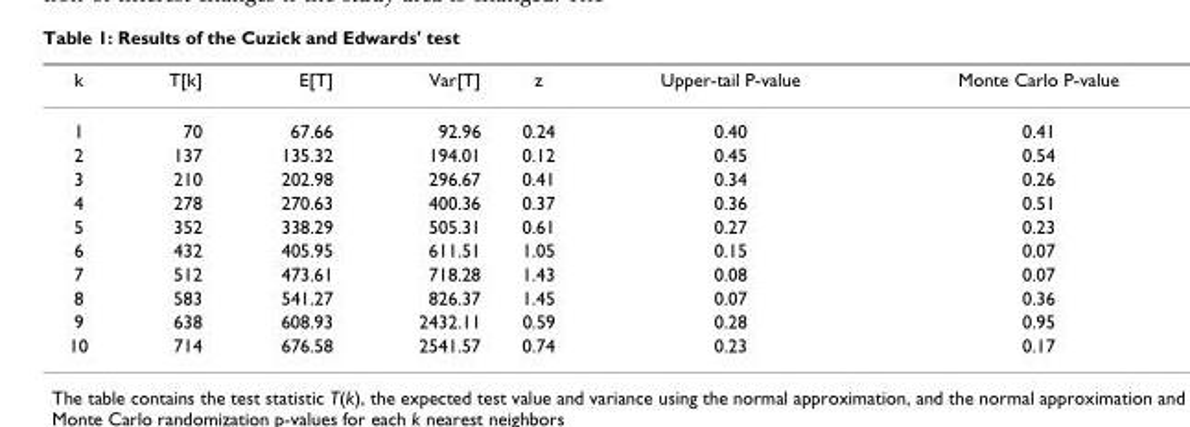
<table><thead><tr><td>k</td><td>T[k]</td><td>E[T]</td><td>Var[T]</td><td>z</td><td>Upper-tail P-value</td><td>Monte Carlo P-value</td></tr></thead><tbody><tr><td>1</td><td>70</td><td>67.66</td><td>92.96</td><td>0.24</td><td>0.40</td><td>0.41</td></tr><tr><td>2</td><td>137</td><td>135.32</td><td>194.01</td><td>0.12</td><td>0.45</td><td>0.54</td></tr><tr><td>3</td><td>210</td><td>202.98</td><td>296.67</td><td>0.41</td><td>0.34</td><td>0.26</td></tr><tr><td>4</td><td>278</td><td>270.63</td><td>400.36</td><td>0.37</td><td>0.36</td><td>0.51</td></tr><tr><td>5</td><td>352</td><td>338.29</td><td>505.31</td><td>0.61</td><td>0.27</td><td>0.23</td></tr><tr><td>6</td><td>432</td><td>405.95</td><td>611.51</td><td>1.05</td><td>0.15</td><td>0.07</td></tr><tr><td>7</td><td>512</td><td>473.61</td><td>718.28</td><td>1.43</td><td>0.08</td><td>0.07</td></tr><tr><td>8</td><td>583</td><td>541.27</td><td>826.37</td><td>1.45</td><td>0.07</td><td>0.36</td></tr><tr><td>9</td><td>638</td><td>608.93</td><td>2432.11</td><td>0.59</td><td>0.28</td><td>0.95</td></tr><tr><td>10</td><td>714</td><td>676.58</td><td>2541.57</td><td>0.74</td><td>0.23</td><td>0.17</td></tr></tbody></table>